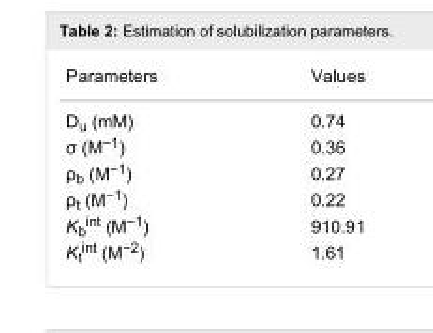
<table><tbody><tr><td>Parameters</td><td>Values</td></tr><tr><td>D<sub>u</sub> (mM)</td><td>0.74</td></tr><tr><td>σ (M<sup>−1</sup>)</td><td>0.36</td></tr><tr><td>ρ<sub>b</sub> (M<sup>−1</sup>)</td><td>0.27</td></tr><tr><td>ρ<sub>t</sub> (M<sup>−1</sup>)</td><td>0.22</td></tr><tr><td>K<sub>b</sub><sup>int</sup> (M<sup>−1</sup>)</td><td>910.91</td></tr><tr><td>K<sub>t</sub><sup>int</sup> (M<sup>−2</sup>)</td><td>1.61</td></tr></tbody></table>